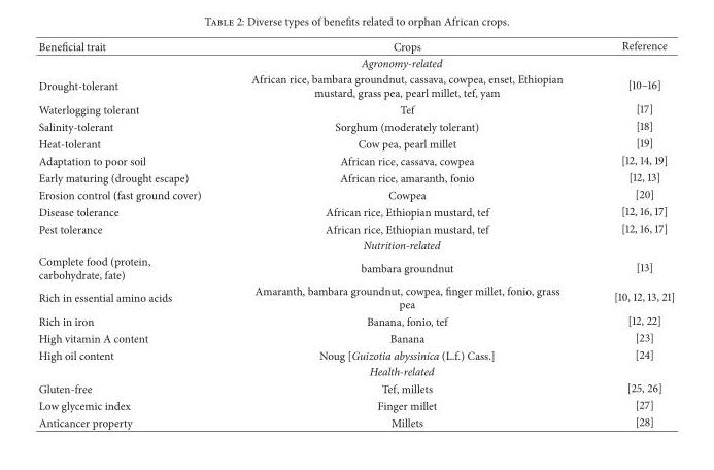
<table><thead><tr><td>Beneficial trait</td><td>Crops</td><td>Reference</td></tr></thead><tbody><tr><td colspan="3">Agronomy-related</td></tr><tr><td>Drought-tolerant</td><td>African rice, bambara groundnut, cassava, cowpea, enset, Ethiopian mustard, grass pea, pearl millet, tef, yam</td><td>[10–16]</td></tr><tr><td>Waterlogging tolerant</td><td>Tef</td><td>[17]</td></tr><tr><td>Salinity-tolerant</td><td>Sorghum (moderately tolerant)</td><td>[18]</td></tr><tr><td>Heat-tolerant</td><td>Cow pea, pearl millet</td><td>[19]</td></tr><tr><td>Adaptation to poor soil</td><td>African rice, cassava, cowpea</td><td>[12, 14, 19]</td></tr><tr><td>Early maturing (drought escape)</td><td>African rice, amaranth, fonio</td><td>[12, 13]</td></tr><tr><td>Erosion control (fast ground cover)</td><td>Cowpea</td><td>[20]</td></tr><tr><td>Disease tolerance</td><td>African rice, Ethiopian mustard, tef</td><td>[12, 16, 17]</td></tr><tr><td>Pest tolerance</td><td>African rice, Ethiopian mustard, tef</td><td>[12, 16, 17]</td></tr><tr><td colspan="3">Nutrition-related</td></tr><tr><td>Complete food (protein, carbohydrate, fate)</td><td>bambara groundnut</td><td>[13]</td></tr><tr><td>Rich in essential amino acids</td><td>Amaranth, bambara groundnut, cowpea, finger millet, fonio, grass pea</td><td>[10, 12, 13, 21]</td></tr><tr><td>Rich in iron</td><td>Banana, fonio, tef</td><td>[12, 22]</td></tr><tr><td>High vitamin A content</td><td>Banana</td><td>[23]</td></tr><tr><td>High oil content</td><td>Noug [Guizotia abyssinica (L.f.) Cass.]</td><td>[24]</td></tr><tr><td colspan="3">Health-related</td></tr><tr><td>Gluten-free</td><td>Tef, millets</td><td>[25, 26]</td></tr><tr><td>Low glycemic index</td><td>Finger millet</td><td>[27]</td></tr><tr><td>Anticancer property</td><td>Millets</td><td>[28]</td></tr></tbody></table>